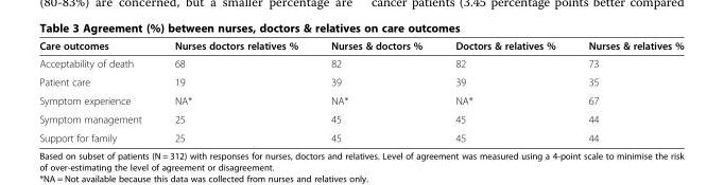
<table><thead><tr><td>Care outcomes</td><td>Nurses doctors relatives %</td><td>Nurses &amp; doctors %</td><td>Doctors &amp; relatives %</td><td>Nurses &amp; relatives %</td></tr></thead><tbody><tr><td>Acceptability of death</td><td>68</td><td>82</td><td>82</td><td>73</td></tr><tr><td>Patient care</td><td>19</td><td>39</td><td>39</td><td>35</td></tr><tr><td>Symptom experience</td><td>NA*</td><td>NA*</td><td>NA*</td><td>67</td></tr><tr><td>Symptom management</td><td>25</td><td>45</td><td>45</td><td>44</td></tr><tr><td>Support for family</td><td>25</td><td>45</td><td>45</td><td>44</td></tr></tbody></table>